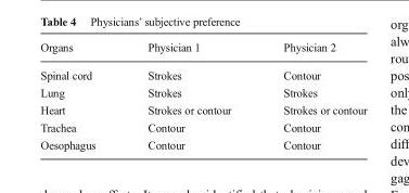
<table><thead><tr><td>Organs</td><td>Physician 1</td><td>Physician 2</td></tr></thead><tbody><tr><td>Spinal cord</td><td>Strokes</td><td>Contour</td></tr><tr><td>Lung</td><td>Strokes</td><td>Strokes</td></tr><tr><td>Heart</td><td>Strokes or contour</td><td>Strokes or contour</td></tr><tr><td>Trachea</td><td>Contour</td><td>Contour</td></tr><tr><td>Oesophagus</td><td>Contour</td><td>Contour</td></tr></tbody></table>